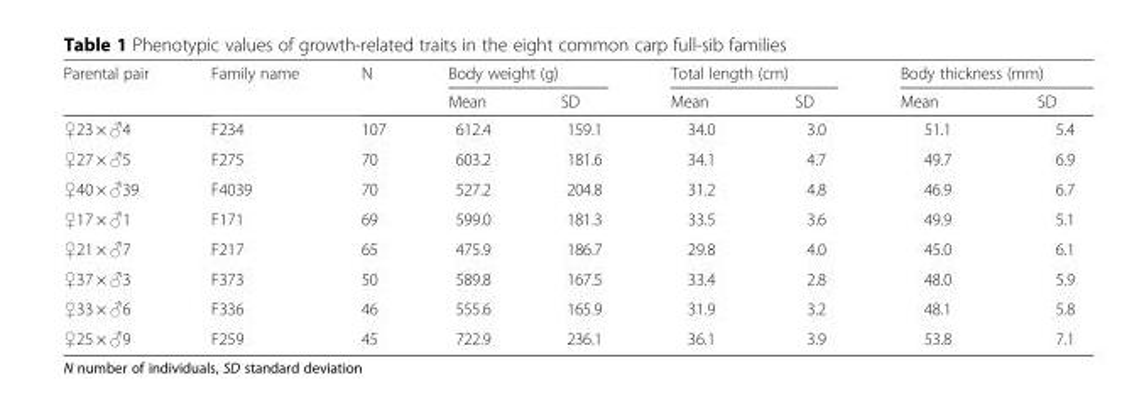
<table><thead><tr><td rowspan="2">Parental pair</td><td rowspan="2">Family name</td><td rowspan="2">N</td><td colspan="2">Body weight (g)</td><td colspan="2">Total length (cm)</td><td colspan="2">Body thickness (mm)</td></tr><tr><td>Mean</td><td>SD</td><td>Mean</td><td>SD</td><td>Mean</td><td>SD</td></tr></thead><tbody><tr><td>♀23 × ♂4</td><td>F234</td><td>107</td><td>612.4</td><td>159.1</td><td>34.0</td><td>3.0</td><td>51.1</td><td>5.4</td></tr><tr><td>♀27 × ♂5</td><td>F275</td><td>70</td><td>603.2</td><td>181.6</td><td>34.1</td><td>4.7</td><td>49.7</td><td>6.9</td></tr><tr><td>♀40 × ♂39</td><td>F4039</td><td>70</td><td>527.2</td><td>204.8</td><td>31.2</td><td>4.8</td><td>46.9</td><td>6.7</td></tr><tr><td>♀17 × ♂1</td><td>F171</td><td>69</td><td>599.0</td><td>181.3</td><td>33.5</td><td>3.6</td><td>49.9</td><td>5.1</td></tr><tr><td>♀21 × ♂7</td><td>F217</td><td>65</td><td>475.9</td><td>186.7</td><td>29.8</td><td>4.0</td><td>45.0</td><td>6.1</td></tr><tr><td>♀37 × ♂3</td><td>F373</td><td>50</td><td>589.8</td><td>167.5</td><td>33.4</td><td>2.8</td><td>48.0</td><td>5.9</td></tr><tr><td>♀33 × ♂6</td><td>F336</td><td>46</td><td>555.6</td><td>165.9</td><td>31.9</td><td>3.2</td><td>48.1</td><td>5.8</td></tr><tr><td>♀25 × ♂9</td><td>F259</td><td>45</td><td>722.9</td><td>236.1</td><td>36.1</td><td>3.9</td><td>53.8</td><td>7.1</td></tr></tbody></table>